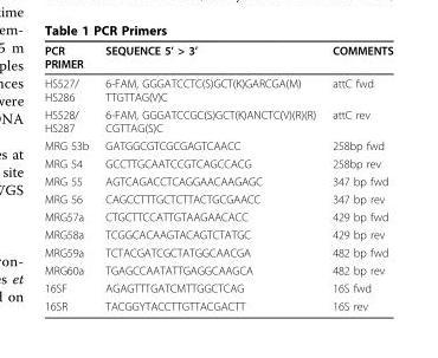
<table><thead><tr><td>PCR PRIMER</td><td>SEQUENCE 5’ &gt; 3’</td><td>COMMENTS</td></tr></thead><tbody><tr><td>HS527/ HS286</td><td>6-FAM, GGGATCCTC(S)GCT(K)GARCGA(M) TTGTTAG(V)C</td><td>attC fwd</td></tr><tr><td>HS528/ HS287</td><td>6-FAM, GGGATCCGC(S)GCT(K)ANCTC(V)(R)(R) CGTTAG(S)C</td><td>attC rev</td></tr><tr><td>MRG 53b</td><td>GATGGCGTCGCGAGTCAACC</td><td>258bp fwd</td></tr><tr><td>MRG 54</td><td>GCCTTGCAATCCGTCAGCCACG</td><td>258bp rev</td></tr><tr><td>MRG 55</td><td>AGTCAGACCTCAGGAACAAGAGC</td><td>347 bp fwd</td></tr><tr><td>MRG 56</td><td>CAGCCTTTGCTCTTACTGCGAACC</td><td>347 bp rev</td></tr><tr><td>MRG57a</td><td>CTGCTTCCATTGTAAGAACACC</td><td>429 bp fwd</td></tr><tr><td>MRG58a</td><td>TCGGCACAAGTACAGTCTATGC</td><td>429 bp rev</td></tr><tr><td>MRG59a</td><td>TCTACGATCGCTATGGCAACGA</td><td>482 bp fwd</td></tr><tr><td>MRG60a</td><td>TGAGCCAATATTGAGGCAAGCA</td><td>482 bp rev</td></tr><tr><td>16SF</td><td>AGAGTTTGATCMTTGGCTCAG</td><td>16S fwd</td></tr><tr><td>16SR</td><td>TACGGYTACCTTGTTACGACTT</td><td>16S rev</td></tr></tbody></table>